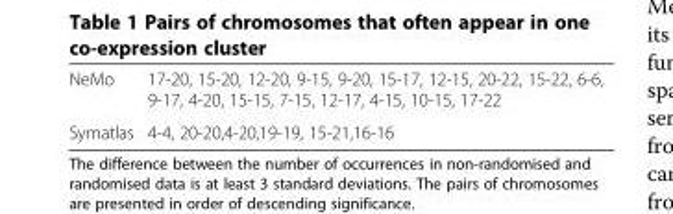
<table><tbody><tr><td>NeMo</td><td>17-20, 15-20, 12-20, 9-15, 9-20, 15-17, 12-15, 20-22, 15-22, 6-6, 9-17, 4-20, 15-15, 7-15, 12-17, 4-15, 10-15, 17-22</td></tr><tr><td>Symatlas</td><td>4-4, 20-20,4-20,19-19, 15-21,16-16</td></tr></tbody></table>